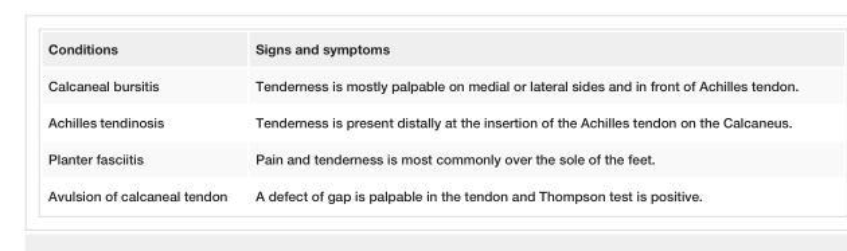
<table><tbody><tr><td>Conditions</td><td>Signs and symptoms</td></tr><tr><td>Calcaneal bursitis</td><td>Tenderness is mostly palpable on medial or lateral sides and in front of Achilles tendon.</td></tr><tr><td>Achilles tendinosis</td><td>Tenderness is present distally at the insertion of the Achilles tendon on the Calcaneus.</td></tr><tr><td>Planter fasciitis</td><td>Pain and tenderness is most commonly over the sole of the feet.</td></tr><tr><td>Avulsion of calcaneal tendon</td><td>A defect of gap is palpable in the tendon and Thompson test is positive.</td></tr></tbody></table>